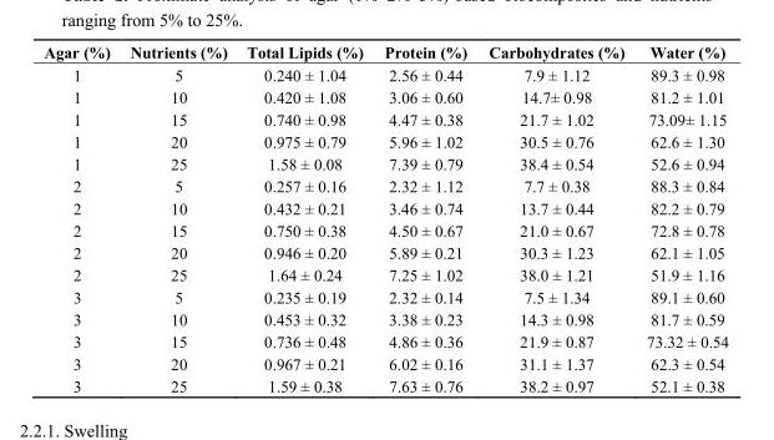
<table><thead><tr><td>Agar (%)</td><td>Nutrients (%)</td><td>Total Lipids (%)</td><td>Protein (%)</td><td>Carbohydrates (%)</td><td>Water (%)</td></tr></thead><tbody><tr><td>1</td><td>5</td><td>0.240 ± 1.04</td><td>2.56 ± 0.44</td><td>7.9 ± 1.12</td><td>89.3 ± 0.98</td></tr><tr><td>1</td><td>10</td><td>0.420 ± 1.08</td><td>3.06 ± 0.60</td><td>14.7± 0.98</td><td>81.2 ± 1.01</td></tr><tr><td>1</td><td>15</td><td>0.740 ± 0.98</td><td>4.47 ± 0.38</td><td>21.7 ± 1.02</td><td>73.09± 1.15</td></tr><tr><td>1</td><td>20</td><td>0.975 ± 0.79</td><td>5.96 ± 1.02</td><td>30.5 ± 0.76</td><td>62.6 ± 1.30</td></tr><tr><td>1</td><td>25</td><td>1.58 ± 0.08</td><td>7.39 ± 0.79</td><td>38.4 ± 0.54</td><td>52.6 ± 0.94</td></tr><tr><td>2</td><td>5</td><td>0.257 ± 0.16</td><td>2.32 ± 1.12</td><td>7.7 ± 0.38</td><td>88.3 ± 0.84</td></tr><tr><td>2</td><td>10</td><td>0.432 ± 0.21</td><td>3.46 ± 0.74</td><td>13.7 ± 0.44</td><td>82.2 ± 0.79</td></tr><tr><td>2</td><td>15</td><td>0.750 ± 0.38</td><td>4.50 ± 0.67</td><td>21.0 ± 0.67</td><td>72.8 ± 0.78</td></tr><tr><td>2</td><td>20</td><td>0.946 ± 0.20</td><td>5.89 ± 0.21</td><td>30.3 ± 1.23</td><td>62.1 ± 1.05</td></tr><tr><td>2</td><td>25</td><td>1.64 ± 0.24</td><td>7.25 ± 1.02</td><td>38.0 ± 1.21</td><td>51.9 ± 1.16</td></tr><tr><td>3</td><td>5</td><td>0.235 ± 0.19</td><td>2.32 ± 0.14</td><td>7.5 ± 1.34</td><td>89.1 ± 0.60</td></tr><tr><td>3</td><td>10</td><td>0.453 ± 0.32</td><td>3.38 ± 0.23</td><td>14.3 ± 0.98</td><td>81.7 ± 0.59</td></tr><tr><td>3</td><td>15</td><td>0.736 ± 0.48</td><td>4.86 ± 0.36</td><td>21.9 ± 0.87</td><td>73.32 ± 0.54</td></tr><tr><td>3</td><td>20</td><td>0.967 ± 0.21</td><td>6.02 ± 0.16</td><td>31.1 ± 1.37</td><td>62.3 ± 0.54</td></tr><tr><td>3</td><td>25</td><td>1.59 ± 0.38</td><td>7.63 ± 0.76</td><td>38.2 ± 0.97</td><td>52.1 ± 0.38</td></tr></tbody></table>